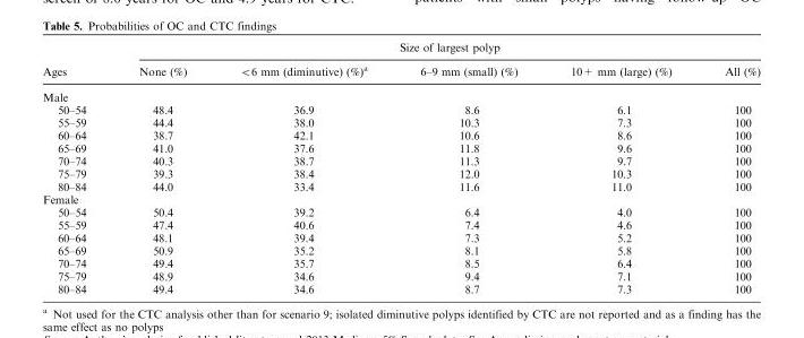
<table><thead><tr><td rowspan="2">Ages</td><td colspan="5">Size of largest polyp</td></tr><tr><td>None (%)</td><td>&lt;6 mm (diminutive) (%)<sup>a</sup></td><td>6–9 mm (small) (%)</td><td>10+ mm (large) (%)</td><td>All (%)</td></tr></thead><tbody><tr><td colspan="6">Male</td></tr><tr><td>50–54</td><td>48.4</td><td>36.9</td><td>8.6</td><td>6.1</td><td>100</td></tr><tr><td>55–59</td><td>44.4</td><td>38.0</td><td>10.3</td><td>7.3</td><td>100</td></tr><tr><td>60–64</td><td>38.7</td><td>42.1</td><td>10.6</td><td>8.6</td><td>100</td></tr><tr><td>65–69</td><td>41.0</td><td>37.6</td><td>11.8</td><td>9.6</td><td>100</td></tr><tr><td>70–74</td><td>40.3</td><td>38.7</td><td>11.3</td><td>9.7</td><td>100</td></tr><tr><td>75–79</td><td>39.3</td><td>38.4</td><td>12.0</td><td>10.3</td><td>100</td></tr><tr><td>80–84</td><td>44.0</td><td>33.4</td><td>11.6</td><td>11.0</td><td>100</td></tr><tr><td colspan="6">Female</td></tr><tr><td>50–54</td><td>50.4</td><td>39.2</td><td>6.4</td><td>4.0</td><td>100</td></tr><tr><td>55–59</td><td>47.4</td><td>40.6</td><td>7.4</td><td>4.6</td><td>100</td></tr><tr><td>60–64</td><td>48.1</td><td>39.4</td><td>7.3</td><td>5.2</td><td>100</td></tr><tr><td>65–69</td><td>50.9</td><td>35.2</td><td>8.1</td><td>5.8</td><td>100</td></tr><tr><td>70–74</td><td>49.4</td><td>35.7</td><td>8.5</td><td>6.4</td><td>100</td></tr><tr><td>75–79</td><td>48.9</td><td>34.6</td><td>9.4</td><td>7.1</td><td>100</td></tr><tr><td>80–84</td><td>49.4</td><td>34.6</td><td>8.7</td><td>7.3</td><td>100</td></tr></tbody></table>